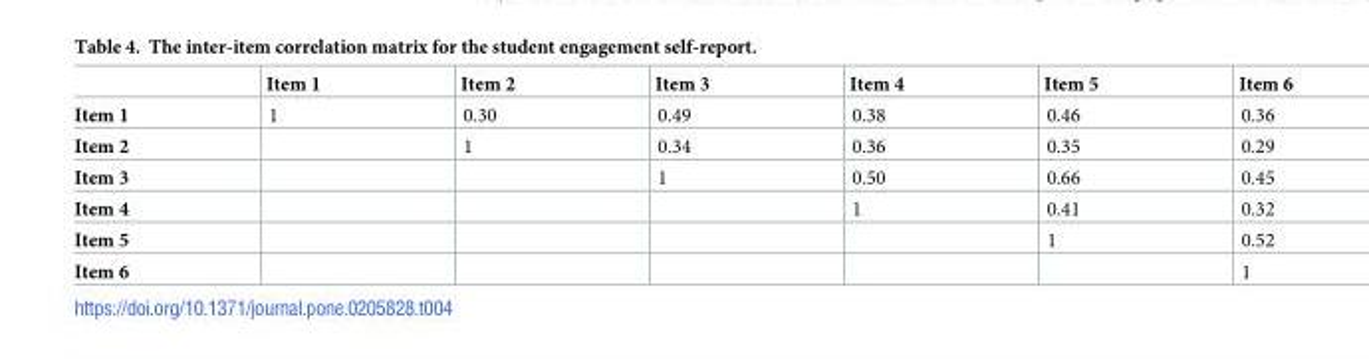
<table><thead><tr><td></td><td>Item 1</td><td>Item 2</td><td>Item 3</td><td>Item 4</td><td>Item 5</td><td>Item 6</td></tr></thead><tbody><tr><td>Item 1</td><td>1</td><td>0.30</td><td>0.49</td><td>0.38</td><td>0.46</td><td>0.36</td></tr><tr><td>Item 2</td><td></td><td>1</td><td>0.34</td><td>0.36</td><td>0.35</td><td>0.29</td></tr><tr><td>Item 3</td><td></td><td></td><td>1</td><td>0.50</td><td>0.66</td><td>0.45</td></tr><tr><td>Item 4</td><td></td><td></td><td></td><td>1</td><td>0.41</td><td>0.32</td></tr><tr><td>Item 5</td><td></td><td></td><td></td><td></td><td>1</td><td>0.52</td></tr><tr><td>Item 6</td><td></td><td></td><td></td><td></td><td></td><td>1</td></tr></tbody></table>